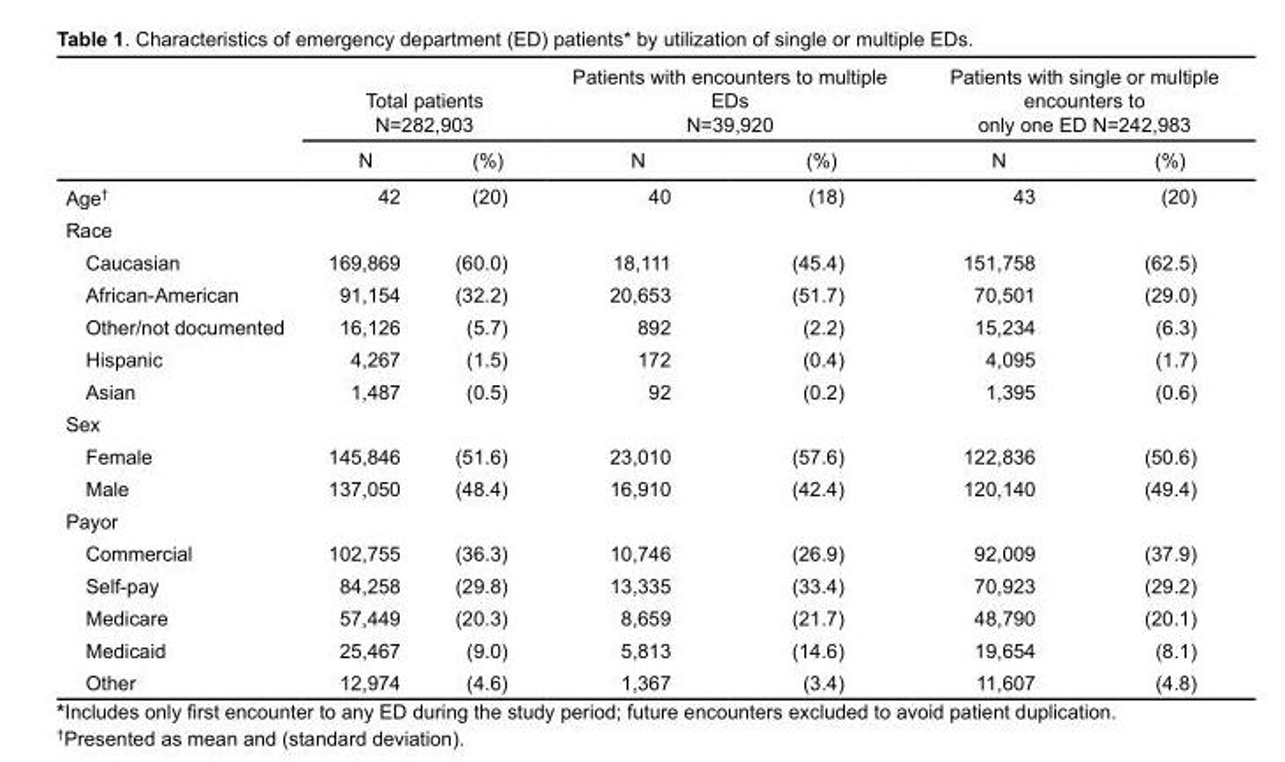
<table><thead><tr><td rowspan="2"></td><td colspan="2">Total patients N=282,903</td><td colspan="2">Patients with encounters to multiple EDs N=39,920</td><td colspan="2">Patients with single or multiple encounters to only one ED N=242,983</td></tr><tr><td>N</td><td>(%)</td><td>N</td><td>(%)</td><td>N</td><td>(%)</td></tr></thead><tbody><tr><td>Age†</td><td>42</td><td>(20)</td><td>40</td><td>(18)</td><td>43</td><td>(20)</td></tr><tr><td colspan="7">Race</td></tr><tr><td>Caucasian</td><td>169,869</td><td>(60.0)</td><td>18,111</td><td>(45.4)</td><td>151,758</td><td>(62.5)</td></tr><tr><td>African-American</td><td>91,154</td><td>(32.2)</td><td>20,653</td><td>(51.7)</td><td>70,501</td><td>(29.0)</td></tr><tr><td>Other/not documented</td><td>16,126</td><td>(5.7)</td><td>892</td><td>(2.2)</td><td>15,234</td><td>(6.3)</td></tr><tr><td>Hispanic</td><td>4,267</td><td>(1.5)</td><td>172</td><td>(0.4)</td><td>4,095</td><td>(1.7)</td></tr><tr><td>Asian</td><td>1,487</td><td>(0.5)</td><td>92</td><td>(0.2)</td><td>1,395</td><td>(0.6)</td></tr><tr><td colspan="7">Sex</td></tr><tr><td>Female</td><td>145,846</td><td>(51.6)</td><td>23,010</td><td>(57.6)</td><td>122,836</td><td>(50.6)</td></tr><tr><td>Male</td><td>137,050</td><td>(48.4)</td><td>16,910</td><td>(42.4)</td><td>120,140</td><td>(49.4)</td></tr><tr><td colspan="7">Payor</td></tr><tr><td>Commercial</td><td>102,755</td><td>(36.3)</td><td>10,746</td><td>(26.9)</td><td>92,009</td><td>(37.9)</td></tr><tr><td>Self-pay</td><td>84,258</td><td>(29.8)</td><td>13,335</td><td>(33.4)</td><td>70,923</td><td>(29.2)</td></tr><tr><td>Medicare</td><td>57,449</td><td>(20.3)</td><td>8,659</td><td>(21.7)</td><td>48,790</td><td>(20.1)</td></tr><tr><td>Medicaid</td><td>25,467</td><td>(9.0)</td><td>5,813</td><td>(14.6)</td><td>19,654</td><td>(8.1)</td></tr><tr><td>Other</td><td>12,974</td><td>(4.6)</td><td>1,367</td><td>(3.4)</td><td>11,607</td><td>(4.8)</td></tr></tbody></table>